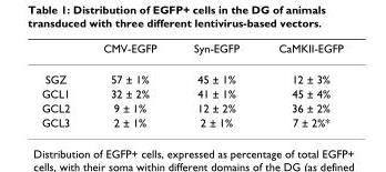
<table><thead><tr><td></td><td>CMV-EGFP</td><td>Syn-EGFP</td><td>CaMKII-EGFP</td></tr></thead><tbody><tr><td>SGZ</td><td>57 ± 1%</td><td>45 ± 1%</td><td>12 ± 3%</td></tr><tr><td>GCL1</td><td>32 ± 2%</td><td>41 ± 1%</td><td>45 ± 4%</td></tr><tr><td>GCL2</td><td>9 ± 1%</td><td>12 ± 2%</td><td>36 ± 2%</td></tr><tr><td>GCL3</td><td>2 ± 1%</td><td>2 ± 1%</td><td>7 ± 2%*</td></tr></tbody></table>